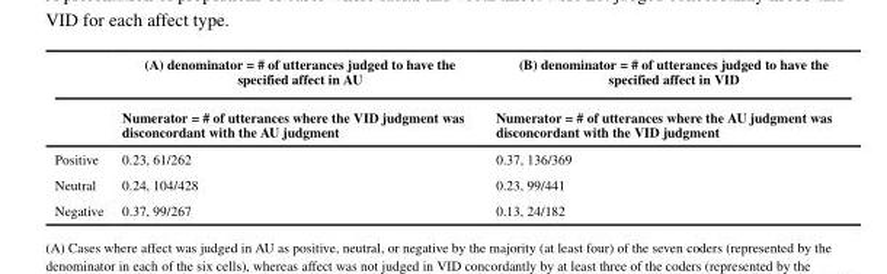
<table><thead><tr><td rowspan="2"></td><td rowspan="2">(A) denominator = # of utterances judged to have the specified affect in AU Numerator = # of utterances where the VID judgment was disconcordant with the AU judgment</td><td rowspan="2">(B) denominator = # of utterances judged to have the specified affect in VID Numerator = # of utterances where the AU judgment was disconcordant with the VID judgment</td></tr><tr></tr></thead><tbody><tr><td>Positive</td><td>0.23, 61/262</td><td>0.37, 136/369</td></tr><tr><td>Neutral</td><td>0.24, 104/428</td><td>0.23, 99/441</td></tr><tr><td>Negative</td><td>0.37, 99/267</td><td>0.13, 24/182</td></tr></tbody></table>